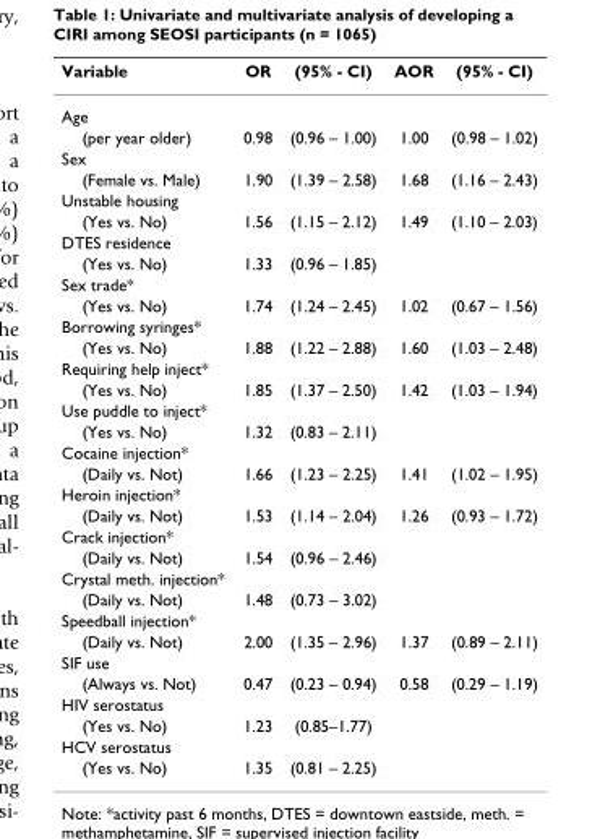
<table><thead><tr><td>Variable</td><td>OR</td><td>(95% - CI)</td><td>AOR</td><td>(95% - CI)</td></tr></thead><tbody><tr><td colspan="5">Age</td></tr><tr><td>(per year older)</td><td>0.98</td><td>(0.96 – 1.00)</td><td>1.00</td><td>(0.98 – 1.02)</td></tr><tr><td colspan="5">Sex</td></tr><tr><td>(Female vs. Male)</td><td>1.90</td><td>(1.39 – 2.58)</td><td>1.68</td><td>(1.16 – 2.43)</td></tr><tr><td colspan="5">Unstable housing</td></tr><tr><td>(Yes vs. No)</td><td>1.56</td><td>(1.15 – 2.12)</td><td>1.49</td><td>(1.10 – 2.03)</td></tr><tr><td colspan="5">DTES residence</td></tr><tr><td>(Yes vs. No)</td><td>1.33</td><td>(0.96 – 1.85)</td><td></td><td></td></tr><tr><td colspan="5">Sex trade*</td></tr><tr><td>(Yes vs. No)</td><td>1.74</td><td>(1.24 – 2.45)</td><td>1.02</td><td>(0.67 – 1.56)</td></tr><tr><td colspan="5">Borrowing syringes*</td></tr><tr><td>(Yes vs. No)</td><td>1.88</td><td>(1.22 – 2.88)</td><td>1.60</td><td>(1.03 – 2.48)</td></tr><tr><td colspan="5">Requiring help inject*</td></tr><tr><td>(Yes vs. No)</td><td>1.85</td><td>(1.37 – 2.50)</td><td>1.42</td><td>(1.03 – 1.94)</td></tr><tr><td colspan="5">Use puddle to inject*</td></tr><tr><td>(Yes vs. No)</td><td>1.32</td><td>(0.83 – 2.11)</td><td></td><td></td></tr><tr><td colspan="5">Cocaine injection*</td></tr><tr><td>(Daily vs. Not)</td><td>1.66</td><td>(1.23 – 2.25)</td><td>1.41</td><td>(1.02 – 1.95)</td></tr><tr><td colspan="5">Heroin injection*</td></tr><tr><td>(Daily vs. Not)</td><td>1.53</td><td>(1.14 – 2.04)</td><td>1.26</td><td>(0.93 – 1.72)</td></tr><tr><td colspan="5">Crack injection*</td></tr><tr><td>(Daily vs. Not)</td><td>1.54</td><td>(0.96 – 2.46)</td><td></td><td></td></tr><tr><td colspan="5">Crystal meth. injection*</td></tr><tr><td>(Daily vs. Not)</td><td>1.48</td><td>(0.73 – 3.02)</td><td></td><td></td></tr><tr><td colspan="5">Speedball injection*</td></tr><tr><td>(Daily vs. Not)</td><td>2.00</td><td>(1.35 – 2.96)</td><td>1.37</td><td>(0.89 – 2.11)</td></tr><tr><td colspan="5">SIF use</td></tr><tr><td>(Always vs. Not)</td><td>0.47</td><td>(0.23 – 0.94)</td><td>0.58</td><td>(0.29 – 1.19)</td></tr><tr><td colspan="5">HIV serostatus</td></tr><tr><td>(Yes vs. No)</td><td>1.23</td><td>(0.85–1.77)</td><td></td><td></td></tr><tr><td colspan="5">HCV serostatus</td></tr><tr><td>(Yes vs. No)</td><td>1.35</td><td>(0.81 – 2.25)</td><td></td><td></td></tr></tbody></table>